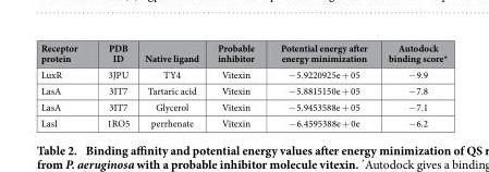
<table><thead><tr><td>Receptor protein</td><td>PDB ID</td><td>Native ligand</td><td>Probable inhibitor</td><td>Potential energy after energy minimization</td><td>Autodock binding score*</td></tr></thead><tbody><tr><td>LuxR</td><td>3JPU</td><td>TY4</td><td>Vitexin</td><td>− 5.9220925e + 05</td><td>− 9.9</td></tr><tr><td>LasA</td><td>3IT7</td><td>Tartaric acid</td><td>Vitexin</td><td>− 5.8815150e + 05</td><td>− 7.8</td></tr><tr><td>LasA</td><td>3IT7</td><td>Glycerol</td><td>Vitexin</td><td>− 5.9453588e + 05</td><td>− 7.1</td></tr><tr><td>LasI</td><td>1RO5</td><td>perrhenate</td><td>Vitexin</td><td>− 6.4595388e + 0e</td><td>− 6.2</td></tr></tbody></table>